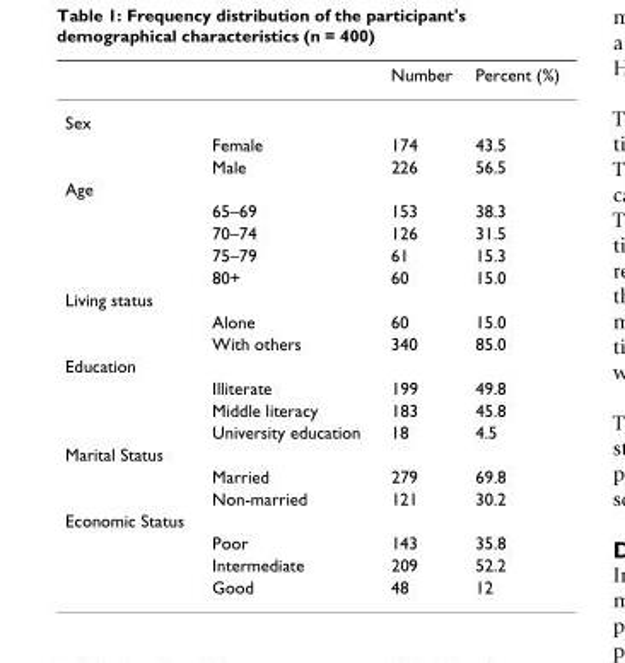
<table><thead><tr><td></td><td></td><td>Number</td><td>Percent (%)</td></tr></thead><tbody><tr><td colspan="4">Sex</td></tr><tr><td></td><td>Female</td><td>174</td><td>43.5</td></tr><tr><td></td><td>Male</td><td>226</td><td>56.5</td></tr><tr><td colspan="4">Age</td></tr><tr><td></td><td>65–69</td><td>153</td><td>38.3</td></tr><tr><td></td><td>70–74</td><td>126</td><td>31.5</td></tr><tr><td></td><td>75–79</td><td>61</td><td>15.3</td></tr><tr><td></td><td>80+</td><td>60</td><td>15.0</td></tr><tr><td colspan="4">Living status</td></tr><tr><td></td><td>Alone</td><td>60</td><td>15.0</td></tr><tr><td></td><td>With others</td><td>340</td><td>85.0</td></tr><tr><td colspan="4">Education</td></tr><tr><td></td><td>Illiterate</td><td>199</td><td>49.8</td></tr><tr><td></td><td>Middle literacy</td><td>183</td><td>45.8</td></tr><tr><td></td><td>University education</td><td>18</td><td>4.5</td></tr><tr><td colspan="4">Marital Status</td></tr><tr><td></td><td>Married</td><td>279</td><td>69.8</td></tr><tr><td></td><td>Non-married</td><td>121</td><td>30.2</td></tr><tr><td colspan="4">Economic Status</td></tr><tr><td></td><td>Poor</td><td>143</td><td>35.8</td></tr><tr><td></td><td>Intermediate</td><td>209</td><td>52.2</td></tr><tr><td></td><td>Good</td><td>48</td><td>12</td></tr></tbody></table>